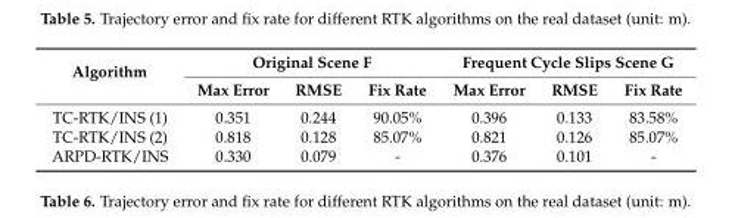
<table><thead><tr><td rowspan="2">Algorithm</td><td colspan="3">Original Scene F</td><td colspan="3">Frequent Cycle Slips Scene G</td></tr><tr><td>Max Error</td><td>RMSE</td><td>Fix Rate</td><td>Max Error</td><td>RMSE</td><td>Fix Rate</td></tr></thead><tbody><tr><td>TC-RTK/INS (1)</td><td>0.351</td><td>0.244</td><td>90.05%</td><td>0.396</td><td>0.133</td><td>83.58%</td></tr><tr><td>TC-RTK/INS (2)</td><td>0.818</td><td>0.128</td><td>85.07%</td><td>0.821</td><td>0.126</td><td>85.07%</td></tr><tr><td>ARPD-RTK/INS</td><td>0.330</td><td>0.079</td><td>-</td><td>0.376</td><td>0.101</td><td>-</td></tr></tbody></table>